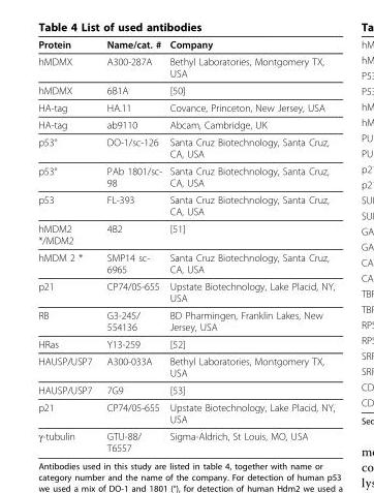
<table><thead><tr><td>Protein</td><td>Name/cat. #</td><td>Company</td></tr></thead><tbody><tr><td>hMDMX</td><td>A300-287A</td><td>Bethyl Laboratories, Montgomery TX, USA</td></tr><tr><td>hMDMX</td><td>6B1A</td><td>[50]</td></tr><tr><td>HA-tag</td><td>HA.11</td><td>Covance, Princeton, New Jersey, USA</td></tr><tr><td>HA-tag</td><td>ab9110</td><td>Abcam, Cambridge, UK</td></tr><tr><td>p53°</td><td>DO-1/sc-126</td><td>Santa Cruz Biotechnology, Santa Cruz, CA, USA</td></tr><tr><td>p53°</td><td>PAb 1801/sc- 98</td><td>Santa Cruz Biotechnology, Santa Cruz, CA, USA</td></tr><tr><td>p53</td><td>FL-393</td><td>Santa Cruz Biotechnology, Santa Cruz, CA, USA</td></tr><tr><td>hMDM2 */MDM2</td><td>4B2</td><td>[51]</td></tr><tr><td>hMDM 2 *</td><td>SMP14 sc- 6965</td><td>Santa Cruz Biotechnology, Santa Cruz, CA, USA</td></tr><tr><td>p21</td><td>CP74/05-655</td><td>Upstate Biotechnology, Lake Placid, NY, USA</td></tr><tr><td>RB</td><td>G3-245/ 554136</td><td>BD Pharmingen, Franklin Lakes, New Jersey, USA</td></tr><tr><td>HRas</td><td>Y13-259</td><td>[52]</td></tr><tr><td>HAUSP/USP7</td><td>A300-033A</td><td>Bethyl Laboratories, Montgomery TX, USA</td></tr><tr><td>HAUSP/USP7</td><td>7G9</td><td>[53]</td></tr><tr><td>p21</td><td>CP74/05-655</td><td>Upstate Biotechnology, Lake Placid, NY, USA</td></tr><tr><td>γ-tubulin</td><td>GTU-88/ T6557</td><td>Sigma-Aldrich, St Louis, MO, USA</td></tr></tbody></table>